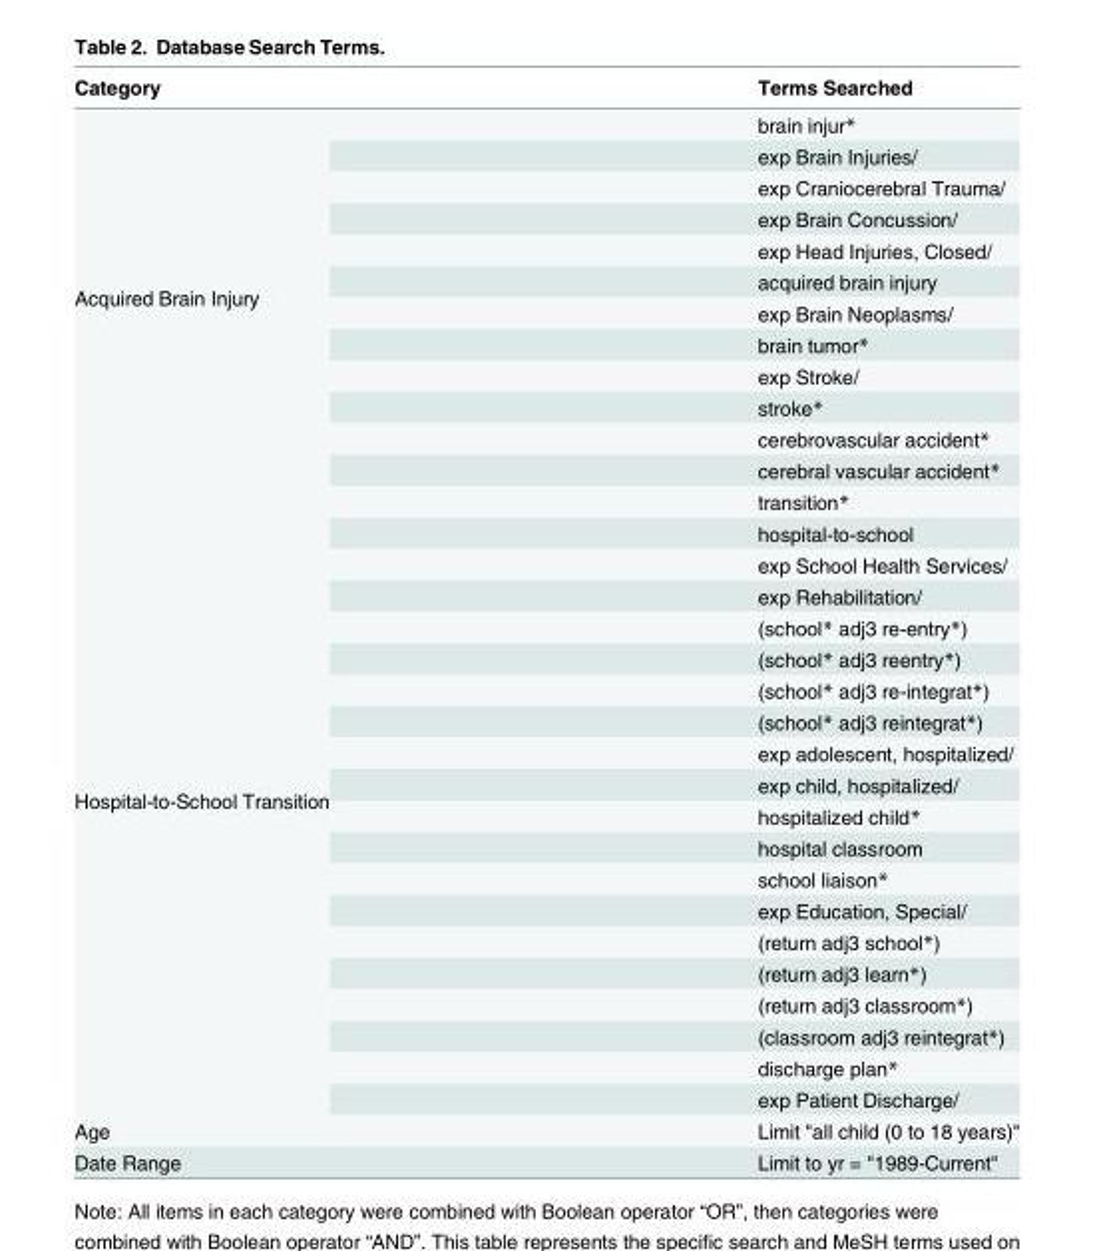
<table><thead><tr><td>Category</td><td>Terms Searched</td></tr></thead><tbody><tr><td rowspan="12">Acquired Brain Injury</td><td>brain injur*</td></tr><tr><td>exp Brain Injuries/</td></tr><tr><td>exp Craniocerebral Trauma/</td></tr><tr><td>exp Brain Concussion/</td></tr><tr><td>exp Head Injuries, Closed/</td></tr><tr><td>acquired brain injury</td></tr><tr><td>exp Brain Neoplasms/</td></tr><tr><td>brain tumor*</td></tr><tr><td>exp Stroke/</td></tr><tr><td>stroke*</td></tr><tr><td>cerebrovascular accident*</td></tr><tr><td>cerebral vascular accident*</td></tr><tr><td rowspan="20">Hospital-to-School Transition</td><td>transition*</td></tr><tr><td>hospital-to-school</td></tr><tr><td>exp School Health Services/</td></tr><tr><td>exp Rehabilitation/</td></tr><tr><td>(school* adj3 re-entry*)</td></tr><tr><td>(school* adj3 reentry*)</td></tr><tr><td>(school* adj3 re-integrat*)</td></tr><tr><td>(school* adj3 reintegrat*)</td></tr><tr><td>exp adolescent, hospitalized/</td></tr><tr><td>exp child, hospitalized/</td></tr><tr><td>hospitalized child*</td></tr><tr><td>hospital classroom</td></tr><tr><td>school liaison*</td></tr><tr><td>exp Education, Special/</td></tr><tr><td>(return adj3 school*)</td></tr><tr><td>(return adj3 learn*)</td></tr><tr><td>(return adj3 classroom*)</td></tr><tr><td>(classroom adj3 reintegrat*)</td></tr><tr><td>discharge plan*</td></tr><tr><td>exp Patient Discharge/</td></tr><tr><td>Age</td><td>Limit &quot;all child (0 to 18 years)&quot;</td></tr><tr><td>Date Range</td><td>Limit to yr = &quot;1989-Current&quot;</td></tr></tbody></table>